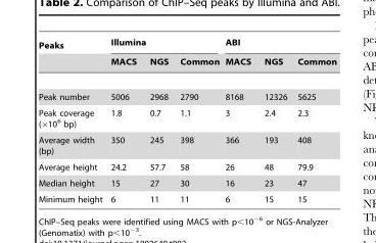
<table><thead><tr><td rowspan="2">Peaks</td><td colspan="3">Illumina</td><td colspan="3">ABI</td></tr><tr><td>MACS</td><td>NGS</td><td>Common</td><td>MACS</td><td>NGS</td><td>Common</td></tr></thead><tbody><tr><td>Peak number</td><td>5006</td><td>2968</td><td>2790</td><td>8168</td><td>12326</td><td>5625</td></tr><tr><td>Peak coverage (×10<sup>6</sup> bp)</td><td>1.8</td><td>0.7</td><td>1.1</td><td>3</td><td>2.4</td><td>2.3</td></tr><tr><td>Average width (bp)</td><td>350</td><td>245</td><td>398</td><td>366</td><td>193</td><td>408</td></tr><tr><td>Average height</td><td>24.2</td><td>57.7</td><td>58</td><td>26</td><td>48</td><td>79.9</td></tr><tr><td>Median height</td><td>15</td><td>27</td><td>30</td><td>16</td><td>23</td><td>47</td></tr><tr><td>Minimum height</td><td>6</td><td>11</td><td>11</td><td>6</td><td>15</td><td>15</td></tr></tbody></table>